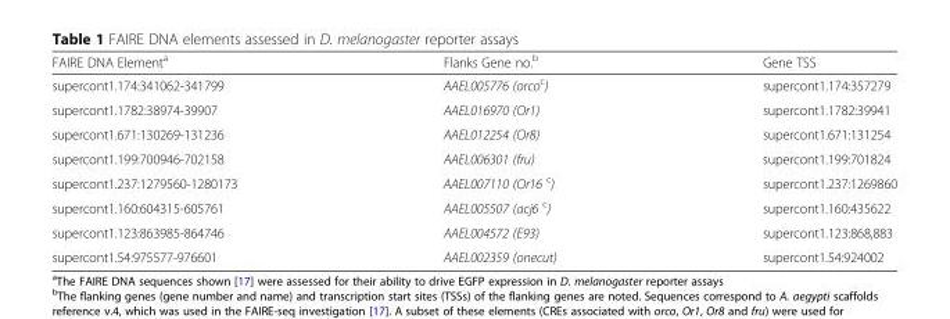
<table><thead><tr><td>FAIRE DNA Element<sup>a</sup></td><td>Flanks Gene no.<sup>b</sup></td><td>Gene TSS</td></tr></thead><tbody><tr><td>supercont1.174:341062-341799</td><td>AAEL005776 (orco<sup>c</sup>)</td><td>supercont1.174:357279</td></tr><tr><td>supercont1.1782:38974-39907</td><td>AAEL016970 (Or1)</td><td>supercont1.1782:39941</td></tr><tr><td>supercont1.671:130269-131236</td><td>AAEL012254 (Or8)</td><td>supercont1.671:131254</td></tr><tr><td>supercont1.199:700946-702158</td><td>AAEL006301 (fru)</td><td>supercont1.199:701824</td></tr><tr><td>supercont1.237:1279560-1280173</td><td>AAEL007110 (Or16 <sup>c</sup>)</td><td>supercont1.237:1269860</td></tr><tr><td>supercont1.160:604315-605761</td><td>AAEL005507 (acj6 <sup>c</sup>)</td><td>supercont1.160:435622</td></tr><tr><td>supercont1.123:863985-864746</td><td>AAEL004572 (E93)</td><td>supercont1.123:868,883</td></tr><tr><td>supercont1.54:975577-976601</td><td>AAEL002359 (onecut)</td><td>supercont1.54:924002</td></tr></tbody></table>